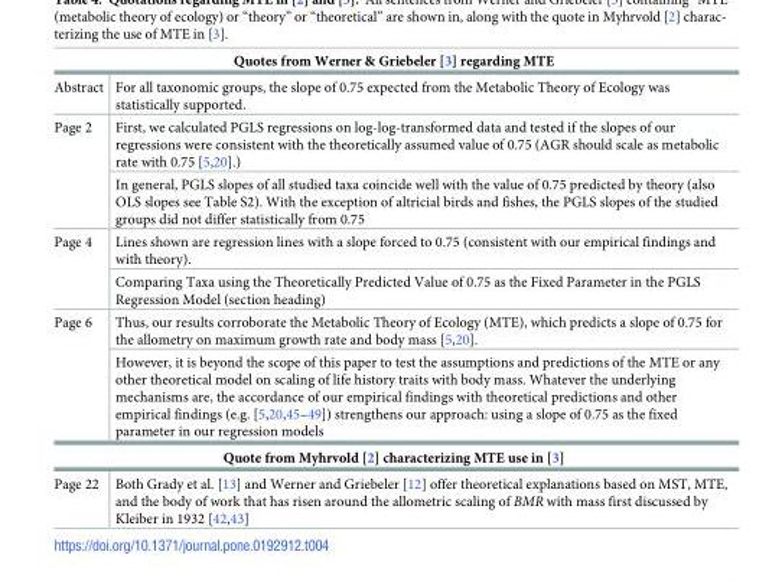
<table><tbody><tr><td colspan="2">Quotes from Werner &amp; Griebeler [3] regarding MTE</td></tr><tr><td>Abstract</td><td>For all taxonomic groups, the slope of 0.75 expected from the Metabolic Theory of Ecology was statistically supported.</td></tr><tr><td rowspan="2">Page 2</td><td>First, we calculated PGLS regressions on log-log-transformed data and tested if the slopes of our regressions were consistent with the theoretically assumed value of 0.75 (AGR should scale as metabolic rate with 0.75 [5,20].)</td></tr><tr><td>In general, PGLS slopes of all studied taxa coincide well with the value of 0.75 predicted by theory (also OLS slopes see Table S2). With the exception of altricial birds and fishes, the PGLS slopes of the studied groups did not differ statistically from 0.75</td></tr><tr><td rowspan="2">Page 4</td><td>Lines shown are regression lines with a slope forced to 0.75 (consistent with our empirical findings and with theory).</td></tr><tr><td>Comparing Taxa using the Theoretically Predicted Value of 0.75 as the Fixed Parameter in the PGLS Regression Model (section heading)</td></tr><tr><td rowspan="2">Page 6</td><td>Thus, our results corroborate the Metabolic Theory of Ecology (MTE), which predicts a slope of 0.75 for the allometry on maximum growth rate and body mass [5,20].</td></tr><tr><td>However, it is beyond the scope of this paper to test the assumptions and predictions of the MTE or any other theoretical model on scaling of life history traits with body mass. Whatever the underlying mechanisms are, the accordance of our empirical findings with theoretical predictions and other empirical findings (e.g. [5,20,45–49]) strengthens our approach: using a slope of 0.75 as the fixed parameter in our regression models</td></tr><tr><td colspan="2">Quote from Myhrvold [2] characterizing MTE use in [3]</td></tr><tr><td>Page 22</td><td>Both Grady et al. [13] and Werner and Griebeler [12] offer theoretical explanations based on MST, MTE, and the body of work that has risen around the allometric scaling of BMR with mass first discussed by Kleiber in 1932 [42,43]</td></tr></tbody></table>